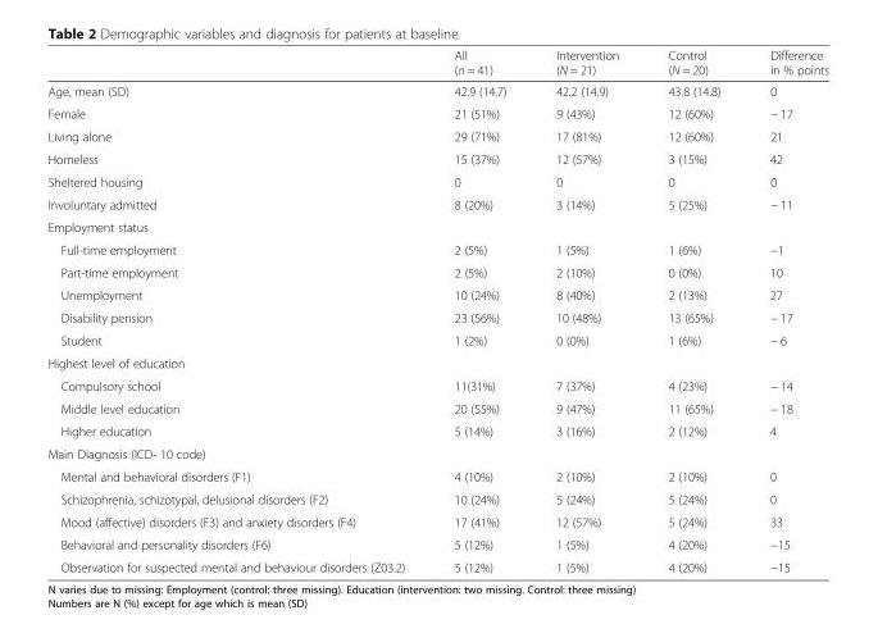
<table><thead><tr><td></td><td>All (n = 41)</td><td>Intervention (N = 21)</td><td>Control (N = 20)</td><td>Difference in % points</td></tr></thead><tbody><tr><td>Age, mean (SD)</td><td>42.9 (14.7)</td><td>42.2 (14.9)</td><td>43.8 (14.8)</td><td>0</td></tr><tr><td>Female</td><td>21 (51%)</td><td>9 (43%)</td><td>12 (60%)</td><td>− 17</td></tr><tr><td>Living alone</td><td>29 (71%)</td><td>17 (81%)</td><td>12 (60%)</td><td>21</td></tr><tr><td>Homeless</td><td>15 (37%)</td><td>12 (57%)</td><td>3 (15%)</td><td>42</td></tr><tr><td>Sheltered housing</td><td>0</td><td>0</td><td>0</td><td>0</td></tr><tr><td>Involuntary admitted</td><td>8 (20%)</td><td>3 (14%)</td><td>5 (25%)</td><td>− 11</td></tr><tr><td colspan="5">Employment status</td></tr><tr><td>Full-time employment</td><td>2 (5%)</td><td>1 (5%)</td><td>1 (6%)</td><td>−1</td></tr><tr><td>Part-time employment</td><td>2 (5%)</td><td>2 (10%)</td><td>0 (0%)</td><td>10</td></tr><tr><td>Unemployment</td><td>10 (24%)</td><td>8 (40%)</td><td>2 (13%)</td><td>27</td></tr><tr><td>Disability pension</td><td>23 (56%)</td><td>10 (48%)</td><td>13 (65%)</td><td>− 17</td></tr><tr><td>Student</td><td>1 (2%)</td><td>0 (0%)</td><td>1 (6%)</td><td>− 6</td></tr><tr><td colspan="5">Highest level of education</td></tr><tr><td>Compulsory school</td><td>11(31%)</td><td>7 (37%)</td><td>4 (23%)</td><td>− 14</td></tr><tr><td>Middle level education</td><td>20 (55%)</td><td>9 (47%)</td><td>11 (65%)</td><td>− 18</td></tr><tr><td>Higher education</td><td>5 (14%)</td><td>3 (16%)</td><td>2 (12%)</td><td>4</td></tr><tr><td colspan="5">Main Diagnosis (ICD- 10 code)</td></tr><tr><td>Mental and behavioral disorders (F1)</td><td>4 (10%)</td><td>2 (10%)</td><td>2 (10%)</td><td>0</td></tr><tr><td>Schizophrenia, schizotypal, delusional disorders (F2)</td><td>10 (24%)</td><td>5 (24%)</td><td>5 (24%)</td><td>0</td></tr><tr><td>Mood (affective) disorders (F3) and anxiety disorders (F4)</td><td>17 (41%)</td><td>12 (57%)</td><td>5 (24%)</td><td>33</td></tr><tr><td>Behavioral and personality disorders (F6)</td><td>5 (12%)</td><td>1 (5%)</td><td>4 (20%)</td><td>−15</td></tr><tr><td>Observation for suspected mental and behaviour disorders (Z03.2)</td><td>5 (12%)</td><td>1 (5%)</td><td>4 (20%)</td><td>−15</td></tr></tbody></table>